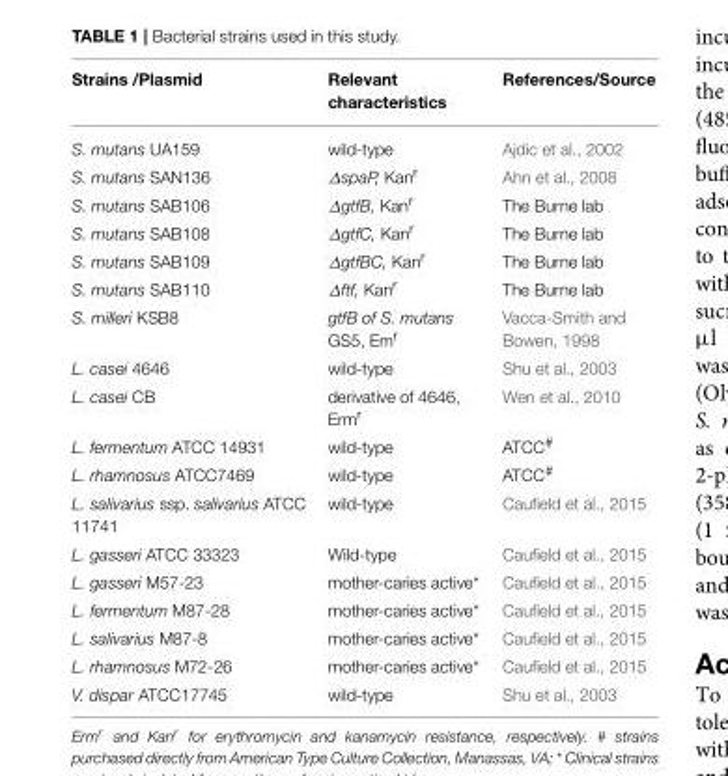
<table><thead><tr><td>Strains /Plasmid</td><td>Relevant characteristics</td><td>References/Source</td></tr></thead><tbody><tr><td>S. mutans UA159</td><td>wild-type</td><td>Ajdic et al., 2002</td></tr><tr><td>S. mutans SAN136</td><td>∆spaP, Kanr</td><td>Ahn et al., 2008</td></tr><tr><td>S. mutans SAB106</td><td>∆gtfB, Kanr</td><td>The Burne lab</td></tr><tr><td>S. mutans SAB108</td><td>∆gtfC, Kanr</td><td>The Burne lab</td></tr><tr><td>S. mutans SAB109</td><td>∆gtfBC, Kanr</td><td>The Burne lab</td></tr><tr><td>S. mutans SAB110</td><td>∆ftf, Kanr</td><td>The Burne lab</td></tr><tr><td>S. milleri KSB8</td><td>gtfB of S. mutans GS5, Em<sup>r</sup></td><td>Vacca-Smith and Bowen, 1998</td></tr><tr><td>L. casei 4646</td><td>wild-type</td><td>Shu et al., 2003</td></tr><tr><td>L. casei CB</td><td>derivative of 4646, Erm<sup>r</sup></td><td>Wen et al., 2010</td></tr><tr><td>L. fermentum ATCC 14931</td><td>wild-type</td><td>ATCC<sup>#</sup></td></tr><tr><td>L. rhamnosus ATCC7469</td><td>wild-type</td><td>ATCC<sup>#</sup></td></tr><tr><td>L. salivarius ssp. salivarius ATCC 11741</td><td>wild-type</td><td>Caufield et al., 2015</td></tr><tr><td>L. gasseri ATCC 33323</td><td>Wild-type</td><td>Caufield et al., 2015</td></tr><tr><td>L. gasseri M57-23</td><td>mother-caries active*</td><td>Caufield et al., 2015</td></tr><tr><td>L. fermentum M87-28</td><td>mother-caries active*</td><td>Caufield et al., 2015</td></tr><tr><td>L. salivarius M87-8</td><td>mother-caries active*</td><td>Caufield et al., 2015</td></tr><tr><td>L. rhamnosus M72-26</td><td>mother-caries active*</td><td>Caufield et al., 2015</td></tr><tr><td>V. dispar ATCC17745</td><td>wild-type</td><td>Shu et al., 2003</td></tr></tbody></table>